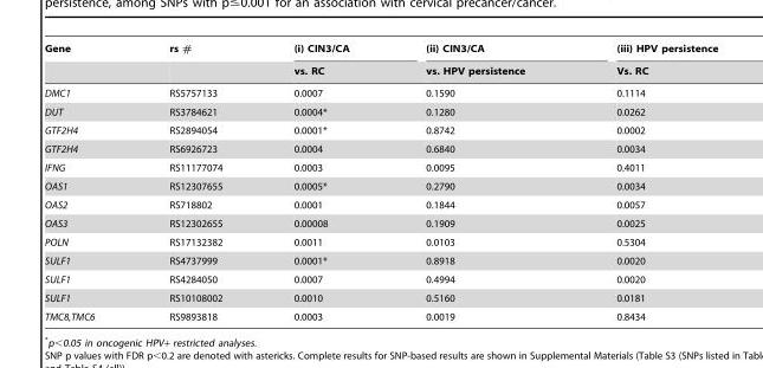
<table><thead><tr><td rowspan="2">Gene</td><td rowspan="2">rs #</td><td rowspan="2">(i) CIN3/CA vs. RC</td><td rowspan="2">(ii) CIN3/CA vs. HPV persistence</td><td rowspan="2">(iii) HPV persistence Vs. RC</td></tr><tr></tr></thead><tbody><tr><td>DMC1</td><td>RS5757133</td><td>0.0007</td><td>0.1590</td><td>0.1114</td></tr><tr><td>DUT</td><td>RS3784621</td><td>0.0004*</td><td>0.1280</td><td>0.0262</td></tr><tr><td>GTF2H4</td><td>RS2894054</td><td>0.0001*</td><td>0.8742</td><td>0.0002</td></tr><tr><td>GTF2H4</td><td>RS6926723</td><td>0.0004</td><td>0.6840</td><td>0.0034</td></tr><tr><td>IFNG</td><td>RS11177074</td><td>0.0003</td><td>0.0095</td><td>0.4011</td></tr><tr><td>OAS1</td><td>RS12307655</td><td>0.0005*</td><td>0.2790</td><td>0.0034</td></tr><tr><td>OAS2</td><td>RS718802</td><td>0.0001</td><td>0.1844</td><td>0.0057</td></tr><tr><td>OAS3</td><td>RS12302655</td><td>0.00008</td><td>0.1909</td><td>0.0025</td></tr><tr><td>POLN</td><td>RS17132382</td><td>0.0011</td><td>0.0103</td><td>0.5304</td></tr><tr><td>SULF1</td><td>RS4737999</td><td>0.0001*</td><td>0.8918</td><td>0.0020</td></tr><tr><td>SULF1</td><td>RS4284050</td><td>0.0007</td><td>0.4994</td><td>0.0020</td></tr><tr><td>SULF1</td><td>RS10108002</td><td>0.0010</td><td>0.5160</td><td>0.0181</td></tr><tr><td>TMC8,TMC6</td><td>RS9893818</td><td>0.0003</td><td>0.0019</td><td>0.8434</td></tr></tbody></table>